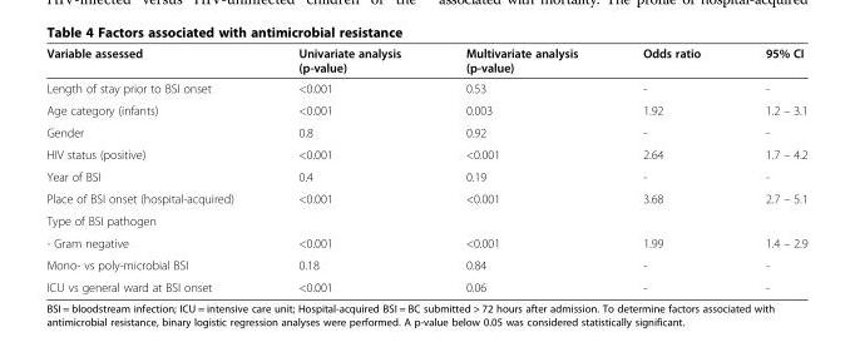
<table><thead><tr><td>Variable assessed</td><td>Univariate analysis (p-value)</td><td>Multivariate analysis (p-value)</td><td>Odds ratio</td><td>95% CI</td></tr></thead><tbody><tr><td>Length of stay prior to BSI onset</td><td>&lt;0.001</td><td>0.53</td><td>-</td><td>-</td></tr><tr><td>Age category (infants)</td><td>&lt;0.001</td><td>0.003</td><td>1.92</td><td>1.2 – 3.1</td></tr><tr><td>Gender</td><td>0.8</td><td>0.92</td><td>-</td><td>-</td></tr><tr><td>HIV status (positive)</td><td>&lt;0.001</td><td>&lt;0.001</td><td>2.64</td><td>1.7 – 4.2</td></tr><tr><td>Year of BSI</td><td>0.4</td><td>0.19</td><td>-</td><td>-</td></tr><tr><td>Place of BSI onset (hospital-acquired)</td><td>&lt;0.001</td><td>&lt;0.001</td><td>3.68</td><td>2.7 – 5.1</td></tr><tr><td colspan="5">Type of BSI pathogen</td></tr><tr><td>- Gram negative</td><td>&lt;0.001</td><td>&lt;0.001</td><td>1.99</td><td>1.4 – 2.9</td></tr><tr><td>Mono- vs poly-microbial BSI</td><td>0.18</td><td>0.84</td><td>-</td><td>-</td></tr><tr><td>ICU vs general ward at BSI onset</td><td>&lt;0.001</td><td>0.06</td><td>-</td><td>-</td></tr></tbody></table>